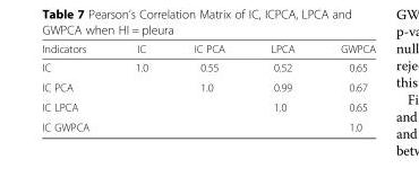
<table><thead><tr><td>Indicators</td><td>IC</td><td>IC PCA</td><td>LPCA</td><td>GWPCA</td></tr></thead><tbody><tr><td>IC</td><td>1.0</td><td>0.55</td><td>0.52</td><td>0.65</td></tr><tr><td>IC PCA</td><td></td><td>1.0</td><td>0.99</td><td>0.67</td></tr><tr><td>IC LPCA</td><td></td><td></td><td>1.0</td><td>0.65</td></tr><tr><td>IC GWPCA</td><td></td><td></td><td></td><td>1.0</td></tr></tbody></table>